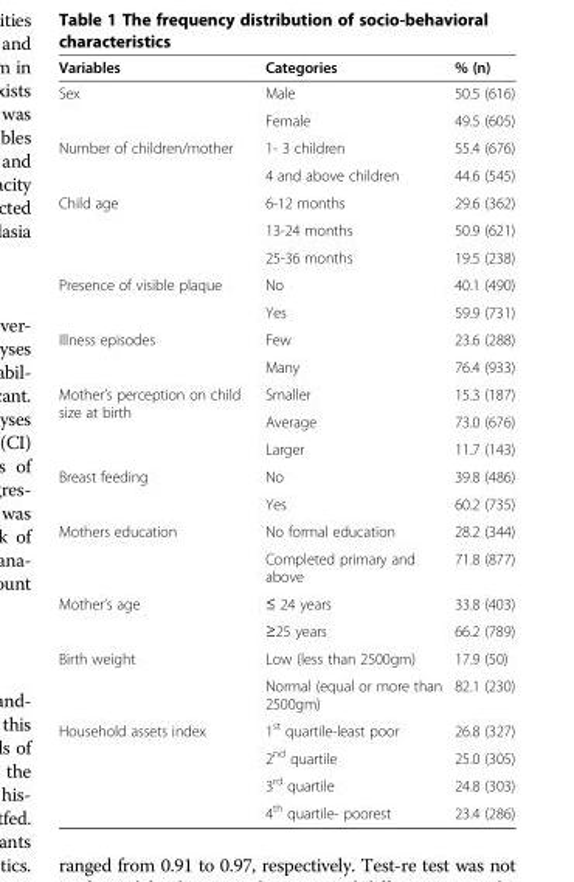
<table><thead><tr><td>Variables</td><td>Categories</td><td>% (n)</td></tr></thead><tbody><tr><td rowspan="2">Sex</td><td>Male</td><td>50.5 (616)</td></tr><tr><td>Female</td><td>49.5 (605)</td></tr><tr><td rowspan="2">Number of children/mother</td><td>1- 3 children</td><td>55.4 (676)</td></tr><tr><td>4 and above children</td><td>44.6 (545)</td></tr><tr><td rowspan="3">Child age</td><td>6-12 months</td><td>29.6 (362)</td></tr><tr><td>13-24 months</td><td>50.9 (621)</td></tr><tr><td>25-36 months</td><td>19.5 (238)</td></tr><tr><td rowspan="2">Presence of visible plaque</td><td>No</td><td>40.1 (490)</td></tr><tr><td>Yes</td><td>59.9 (731)</td></tr><tr><td rowspan="2">Illness episodes</td><td>Few</td><td>23.6 (288)</td></tr><tr><td>Many</td><td>76.4 (933)</td></tr><tr><td rowspan="3">Mother’s perception on child size at birth</td><td>Smaller</td><td>15.3 (187)</td></tr><tr><td>Average</td><td>73.0 (676)</td></tr><tr><td>Larger</td><td>11.7 (143)</td></tr><tr><td rowspan="2">Breast feeding</td><td>No</td><td>39.8 (486)</td></tr><tr><td>Yes</td><td>60.2 (735)</td></tr><tr><td rowspan="2">Mothers education</td><td>No formal education</td><td>28.2 (344)</td></tr><tr><td>Completed primary and above</td><td>71.8 (877)</td></tr><tr><td rowspan="2">Mother’s age</td><td>≤ 24 years</td><td>33.8 (403)</td></tr><tr><td>≥25 years</td><td>66.2 (789)</td></tr><tr><td rowspan="2">Birth weight</td><td>Low (less than 2500gm)</td><td>17.9 (50)</td></tr><tr><td>Normal (equal or more than 2500gm)</td><td>82.1 (230)</td></tr><tr><td rowspan="4">Household assets index</td><td>1<sup>st</sup> quartile-least poor</td><td>26.8 (327)</td></tr><tr><td>2<sup>nd</sup> quartile</td><td>25.0 (305)</td></tr><tr><td>3<sup>rd</sup> quartile</td><td>24.8 (303)</td></tr><tr><td>4<sup>th</sup> quartile- poorest</td><td>23.4 (286)</td></tr></tbody></table>